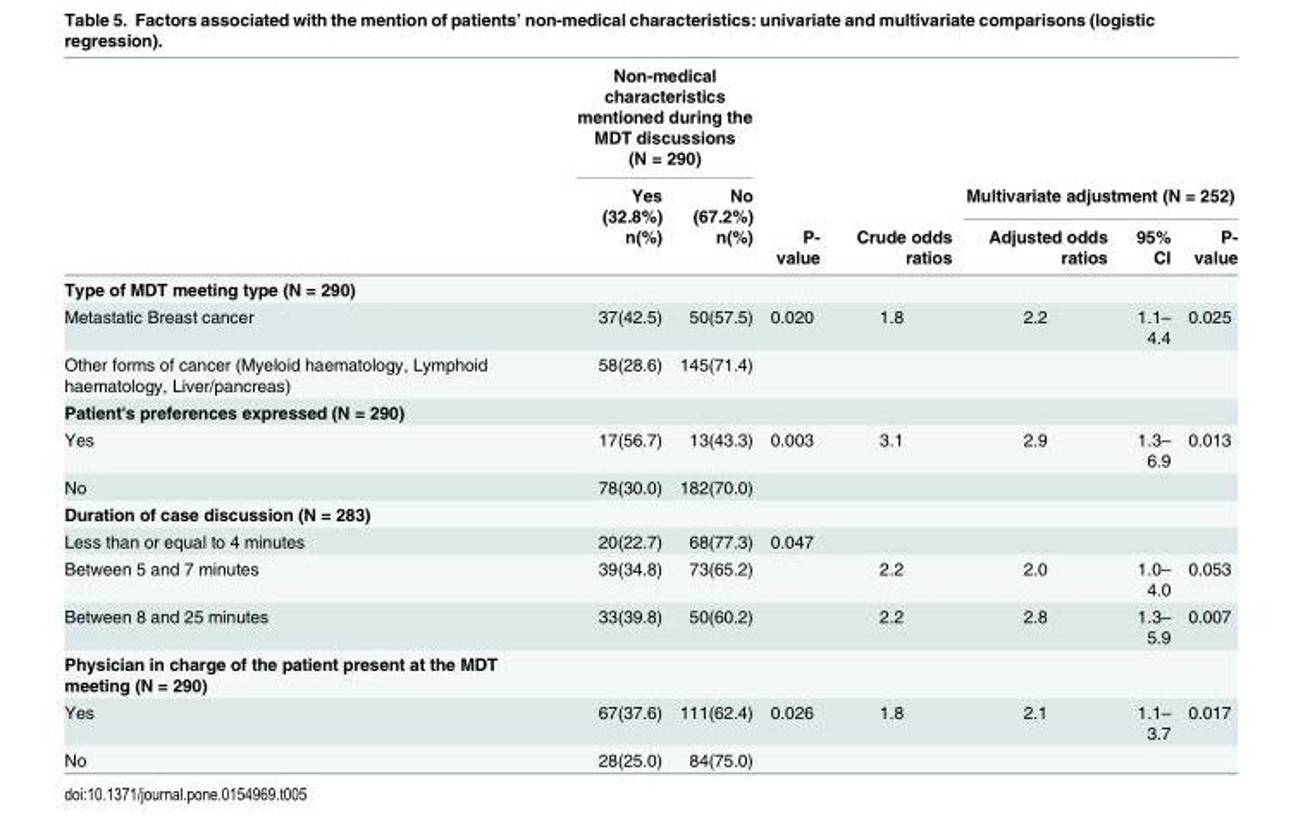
<table><thead><tr><td rowspan="3"></td><td colspan="2">Non-medical characteristics mentioned during the MDT discussions (N = 290)</td><td rowspan="3">P- value</td><td rowspan="3">Crude odds ratios</td><td></td><td></td><td></td></tr><tr><td rowspan="2">Yes (32.8%) n(%)</td><td rowspan="2">No (67.2%) n(%)</td><td colspan="3">Multivariate adjustment (N = 252)</td></tr><tr><td>Adjusted odds ratios</td><td>95% CI</td><td>P- value</td></tr></thead><tbody><tr><td colspan="8">Type of MDT meeting type (N = 290)</td></tr><tr><td>Metastatic Breast cancer</td><td>37(42.5)</td><td>50(57.5)</td><td>0.020</td><td>1.8</td><td>2.2</td><td>1.1– 4.4</td><td>0.025</td></tr><tr><td>Other forms of cancer (Myeloid haematology, Lymphoid haematology, Liver/pancreas)</td><td>58(28.6)</td><td>145(71.4)</td><td></td><td></td><td></td><td></td><td></td></tr><tr><td colspan="8">Patient&#x27;s preferences expressed (N = 290)</td></tr><tr><td>Yes</td><td>17(56.7)</td><td>13(43.3)</td><td>0.003</td><td>3.1</td><td>2.9</td><td>1.3– 6.9</td><td>0.013</td></tr><tr><td>No</td><td>78(30.0)</td><td>182(70.0)</td><td></td><td></td><td></td><td></td><td></td></tr><tr><td colspan="8">Duration of case discussion (N = 283)</td></tr><tr><td>Less than or equal to 4 minutes</td><td>20(22.7)</td><td>68(77.3)</td><td>0.047</td><td></td><td></td><td></td><td></td></tr><tr><td>Between 5 and 7 minutes</td><td>39(34.8)</td><td>73(65.2)</td><td></td><td>2.2</td><td>2.0</td><td>1.0– 4.0</td><td>0.053</td></tr><tr><td>Between 8 and 25 minutes</td><td>33(39.8)</td><td>50(60.2)</td><td></td><td>2.2</td><td>2.8</td><td>1.3– 5.9</td><td>0.007</td></tr><tr><td colspan="8">Physician in charge of the patient present at the MDT meeting (N = 290)</td></tr><tr><td>Yes</td><td>67(37.6)</td><td>111(62.4)</td><td>0.026</td><td>1.8</td><td>2.1</td><td>1.1– 3.7</td><td>0.017</td></tr><tr><td>No</td><td>28(25.0)</td><td>84(75.0)</td><td></td><td></td><td></td><td></td><td></td></tr></tbody></table>